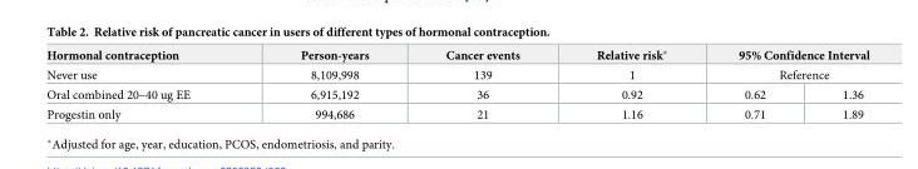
<table><thead><tr><td rowspan="3">Hormonal contraception Never use Oral combined 20–40 ug EE</td><td rowspan="3">Person-years 8,109,998 6,915,192</td><td rowspan="3">Cancer events 139 36</td><td rowspan="3">Relative risk* 1 0.92</td><td rowspan="2" colspan="2">95% Confidence Interval Reference</td></tr><tr></tr><tr><td>0.62</td><td>1.36</td></tr></thead><tbody><tr><td>Progestin only</td><td>994,686</td><td>21</td><td>1.16</td><td>0.71</td><td>1.89</td></tr></tbody></table>